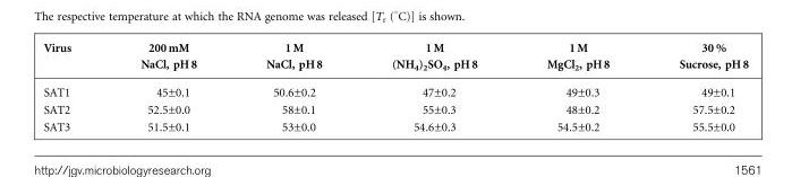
<table><thead><tr><td>Virus</td><td>200 mM NaCl, pH 8</td><td>1 M NaCl, pH 8</td><td>1 M (NH<sub>4</sub>)<sub>2</sub>SO<sub>4</sub>, pH 8</td><td>1 M MgCl<sub>2</sub>, pH 8</td><td>30 % Sucrose, pH 8</td></tr></thead><tbody><tr><td>SAT1</td><td>45±0.1</td><td>50.6±0.2</td><td>47±0.2</td><td>49±0.3</td><td>49±0.1</td></tr><tr><td>SAT2</td><td>52.5±0.0</td><td>58±0.1</td><td>55±0.3</td><td>48±0.2</td><td>57.5±0.2</td></tr><tr><td>SAT3</td><td>51.5±0.1</td><td>53±0.0</td><td>54.6±0.3</td><td>54.5±0.2</td><td>55.5±0.0</td></tr></tbody></table>